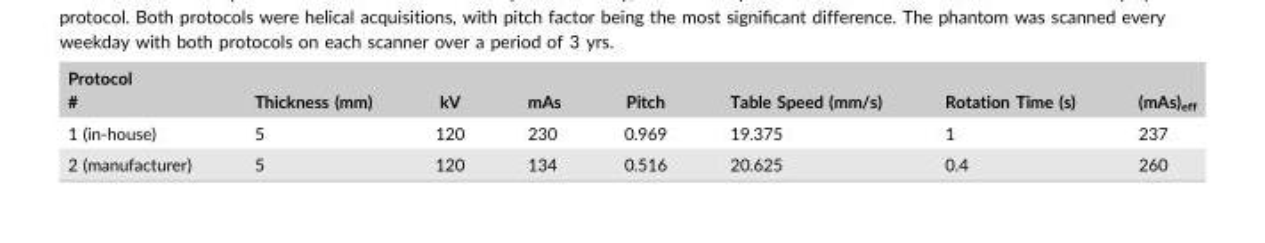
<table><thead><tr><td>Protocol #</td><td>Thickness (mm)</td><td>kV</td><td>mAs</td><td>Pitch</td><td>Table Speed (mm/s)</td><td>Rotation Time (s)</td><td>(mAs)<sub>eff</sub></td></tr></thead><tbody><tr><td>1 (in-house)</td><td>5</td><td>120</td><td>230</td><td>0.969</td><td>19.375</td><td>1</td><td>237</td></tr><tr><td>2 (manufacturer)</td><td>5</td><td>120</td><td>134</td><td>0.516</td><td>20.625</td><td>0.4</td><td>260</td></tr></tbody></table>